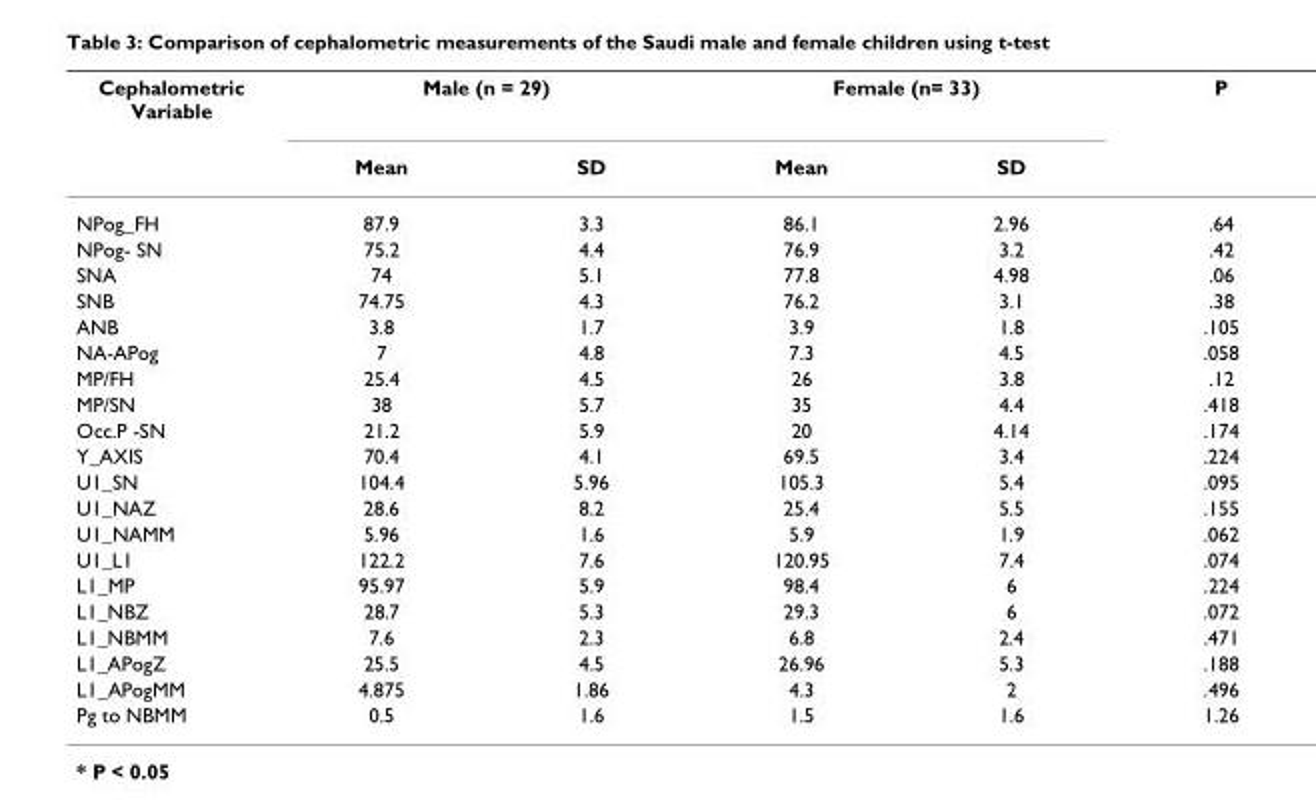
<table><thead><tr><td rowspan="2">Cephalometric Variable</td><td colspan="2">Male (n = 29)</td><td colspan="2">Female (n= 33)</td><td rowspan="2">P</td></tr><tr><td>Mean</td><td>SD</td><td>Mean</td><td>SD</td></tr></thead><tbody><tr><td>NPog_FH</td><td>87.9</td><td>3.3</td><td>86.1</td><td>2.96</td><td>.64</td></tr><tr><td>NPog- SN</td><td>75.2</td><td>4.4</td><td>76.9</td><td>3.2</td><td>.42</td></tr><tr><td>SNA</td><td>74</td><td>5.1</td><td>77.8</td><td>4.98</td><td>.06</td></tr><tr><td>SNB</td><td>74.75</td><td>4.3</td><td>76.2</td><td>3.1</td><td>.38</td></tr><tr><td>ANB</td><td>3.8</td><td>1.7</td><td>3.9</td><td>1.8</td><td>.105</td></tr><tr><td>NA-APog</td><td>7</td><td>4.8</td><td>7.3</td><td>4.5</td><td>.058</td></tr><tr><td>MP/FH</td><td>25.4</td><td>4.5</td><td>26</td><td>3.8</td><td>.12</td></tr><tr><td>MP/SN</td><td>38</td><td>5.7</td><td>35</td><td>4.4</td><td>.418</td></tr><tr><td>Occ.P -SN</td><td>21.2</td><td>5.9</td><td>20</td><td>4.14</td><td>.174</td></tr><tr><td>Y_AXIS</td><td>70.4</td><td>4.1</td><td>69.5</td><td>3.4</td><td>.224</td></tr><tr><td>U1_SN</td><td>104.4</td><td>5.96</td><td>105.3</td><td>5.4</td><td>.095</td></tr><tr><td>U1_NAZ</td><td>28.6</td><td>8.2</td><td>25.4</td><td>5.5</td><td>.155</td></tr><tr><td>U1_NAMM</td><td>5.96</td><td>1.6</td><td>5.9</td><td>1.9</td><td>.062</td></tr><tr><td>U1_L1</td><td>122.2</td><td>7.6</td><td>120.95</td><td>7.4</td><td>.074</td></tr><tr><td>L1_MP</td><td>95.97</td><td>5.9</td><td>98.4</td><td>6</td><td>.224</td></tr><tr><td>L1_NBZ</td><td>28.7</td><td>5.3</td><td>29.3</td><td>6</td><td>.072</td></tr><tr><td>L1_NBMM</td><td>7.6</td><td>2.3</td><td>6.8</td><td>2.4</td><td>.471</td></tr><tr><td>L1_APogZ</td><td>25.5</td><td>4.5</td><td>26.96</td><td>5.3</td><td>.188</td></tr><tr><td>L1_APogMM</td><td>4.875</td><td>1.86</td><td>4.3</td><td>2</td><td>.496</td></tr><tr><td>Pg to NBMM</td><td>0.5</td><td>1.6</td><td>1.5</td><td>1.6</td><td>1.26</td></tr></tbody></table>